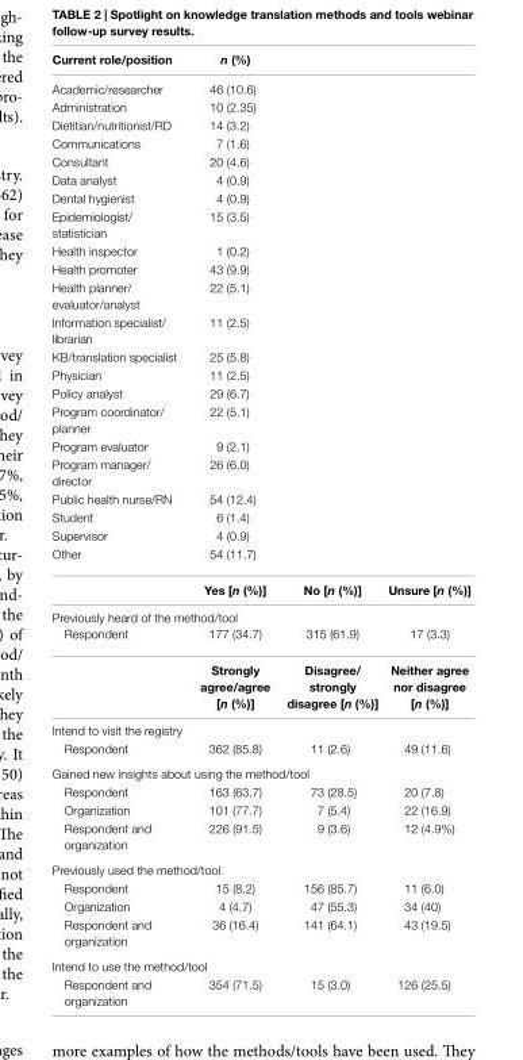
<table><thead><tr><td>Current role/position</td><td>n (%)</td><td></td><td></td></tr></thead><tbody><tr><td>Academic/researcher</td><td>46 (10.6)</td><td></td><td></td></tr><tr><td>Administration</td><td>10 (2.35)</td><td></td><td></td></tr><tr><td>Dietitian/nutritionist/RD</td><td>14 (3.2)</td><td></td><td></td></tr><tr><td>Communications</td><td>7 (1.6)</td><td></td><td></td></tr><tr><td>Consultant</td><td>20 (4.6)</td><td></td><td></td></tr><tr><td>Data analyst</td><td>4 (0.9)</td><td></td><td></td></tr><tr><td>Dental hygienist</td><td>4 (0.9)</td><td></td><td></td></tr><tr><td>Epidemiologist/ statistician</td><td>15 (3.5)</td><td></td><td></td></tr><tr><td>Health inspector</td><td>1 (0.2)</td><td></td><td></td></tr><tr><td>Health promoter</td><td>43 (9.9)</td><td></td><td></td></tr><tr><td>Health planner/ evaluator/analyst</td><td>22 (5.1)</td><td></td><td></td></tr><tr><td>Information specialist/ librarian</td><td>11 (2.5)</td><td></td><td></td></tr><tr><td>KB/translation specialist</td><td>25 (5.8)</td><td></td><td></td></tr><tr><td>Physician</td><td>11 (2.5)</td><td></td><td></td></tr><tr><td>Policy analyst</td><td>29 (6.7)</td><td></td><td></td></tr><tr><td>Program coordinator/ planner</td><td>22 (5.1)</td><td></td><td></td></tr><tr><td>Program evaluator</td><td>9 (2.1)</td><td></td><td></td></tr><tr><td>Program manager/ director</td><td>26 (6.0)</td><td></td><td></td></tr><tr><td>Public health nurse/RN</td><td>54 (12.4)</td><td></td><td></td></tr><tr><td>Student</td><td>6 (1.4)</td><td></td><td></td></tr><tr><td>Supervisor</td><td>4 (0.9)</td><td></td><td></td></tr><tr><td rowspan="2">Other</td><td>54 (11.7)</td><td></td><td></td></tr><tr><td>Yes [n (%)]</td><td>no [n (%)]</td><td>unsure [n (%)]</td></tr><tr><td colspan="4">Previously heard of the method/tool</td></tr><tr><td rowspan="2">Respondent</td><td>177 (34.7)</td><td>315 (61.9)</td><td>17 (3.3)</td></tr><tr><td>Strongly agree/agree [n (%)]</td><td>Disagree/ strongly disagree [n (%)]</td><td>neither agree nor disagree [n (%)]</td></tr><tr><td colspan="4">Intend to visit the registry</td></tr><tr><td>Respondent</td><td>362 (85.8)</td><td>11 (2.6)</td><td>49 (11.6)</td></tr><tr><td colspan="4">Gained new insights about using the method/tool</td></tr><tr><td>Respondent</td><td>163 (63.7)</td><td>73 (28.5)</td><td>20 (7.8)</td></tr><tr><td>Organization</td><td>101 (77.7)</td><td>7 (5.4)</td><td>22 (16.9)</td></tr><tr><td>Respondent and organization</td><td>226 (91.5)</td><td>9 (3.6)</td><td>12 (4.9%)</td></tr><tr><td colspan="4">Previously used the method/tool</td></tr><tr><td>Respondent</td><td>15 (8.2)</td><td>156 (85.7)</td><td>11 (6.0)</td></tr><tr><td>Organization</td><td>4 (4.7)</td><td>47 (55.3)</td><td>34 (40)</td></tr><tr><td>Respondent and organization</td><td>36 (16.4)</td><td>141 (64.1)</td><td>43 (19.5)</td></tr><tr><td colspan="4">Intend to use the method/tool</td></tr><tr><td>Respondent and organization</td><td>354 (71.5)</td><td>15 (3.0)</td><td>126 (25.5)</td></tr></tbody></table>